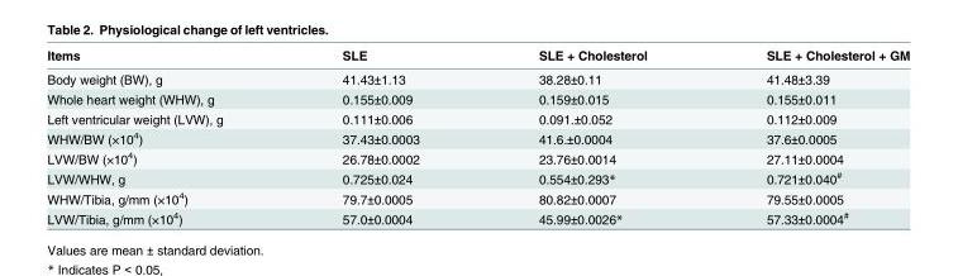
<table><thead><tr><td>Items</td><td>SLE</td><td>SLE + Cholesterol</td><td>SLE + Cholesterol + GM</td></tr></thead><tbody><tr><td>Body weight (BW), g</td><td>41.43±1.13</td><td>38.28±0.11</td><td>41.48±3.39</td></tr><tr><td>Whole heart weight (WHW), g</td><td>0.155±0.009</td><td>0.159±0.015</td><td>0.155±0.011</td></tr><tr><td>Left ventricular weight (LVW), g</td><td>0.111±0.006</td><td>0.091.±0.052</td><td>0.112±0.009</td></tr><tr><td>WHW/BW (×10<sup>4</sup>)</td><td>37.43±0.0003</td><td>41.6.±0.0004</td><td>37.6±0.0005</td></tr><tr><td>LVW/BW (×10<sup>4</sup>)</td><td>26.78±0.0002</td><td>23.76±0.0014</td><td>27.11±0.0004</td></tr><tr><td>LVW/WHW, g</td><td>0.725±0.024</td><td>0.554±0.293*</td><td>0.721±0.040<sup>#</sup></td></tr><tr><td>WHW/Tibia, g/mm (×10<sup>4</sup>)</td><td>79.7±0.0005</td><td>80.82±0.0007</td><td>79.55±0.0005</td></tr><tr><td>LVW/Tibia, g/mm (×10<sup>4</sup>)</td><td>57.0±0.0004</td><td>45.99±0.0026*</td><td>57.33±0.0004<sup>#</sup></td></tr></tbody></table>